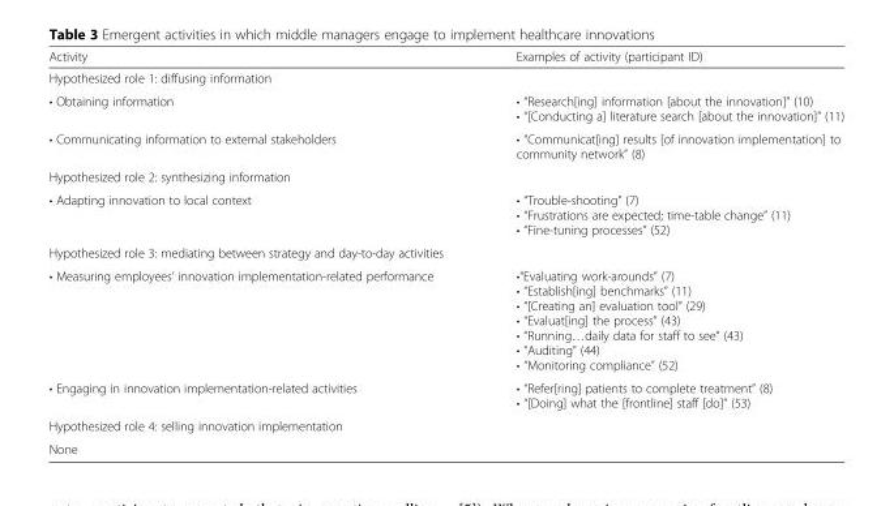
<table><thead><tr><td>Activity</td><td>Examples of activity (participant ID)</td></tr></thead><tbody><tr><td colspan="2">Hypothesized role 1: diffusing information</td></tr><tr><td>• Obtaining information</td><td>• “Research[ing] information [about the innovation]” (10) • “[Conducting a] literature search [about the innovation]” (11)</td></tr><tr><td>• Communicating information to external stakeholders</td><td>• “Communicat[ing] results [of innovation implementation] to community network” (8)</td></tr><tr><td colspan="2">Hypothesized role 2: synthesizing information</td></tr><tr><td>• Adapting innovation to local context</td><td>• “Trouble-shooting” (7) • “Frustrations are expected; time-table change” (11) • “Fine-tuning processes” (52)</td></tr><tr><td colspan="2">Hypothesized role 3: mediating between strategy and day-to-day activities</td></tr><tr><td>• Measuring employees’ innovation implementation-related performance</td><td>•“Evaluating work-arounds” (7) • “Establish[ing] benchmarks” (11) • “[Creating an] evaluation tool” (29) • “Evaluat[ing] the process” (43) • “Running…daily data for staff to see” (43) • “Auditing” (44) • “Monitoring compliance” (52)</td></tr><tr><td>• Engaging in innovation implementation-related activities</td><td>• “Refer[ring] patients to complete treatment” (8) • “[Doing] what the [frontline] staff [do]” (53)</td></tr><tr><td colspan="2">Hypothesized role 4: selling innovation implementation</td></tr><tr><td colspan="2">None</td></tr></tbody></table>